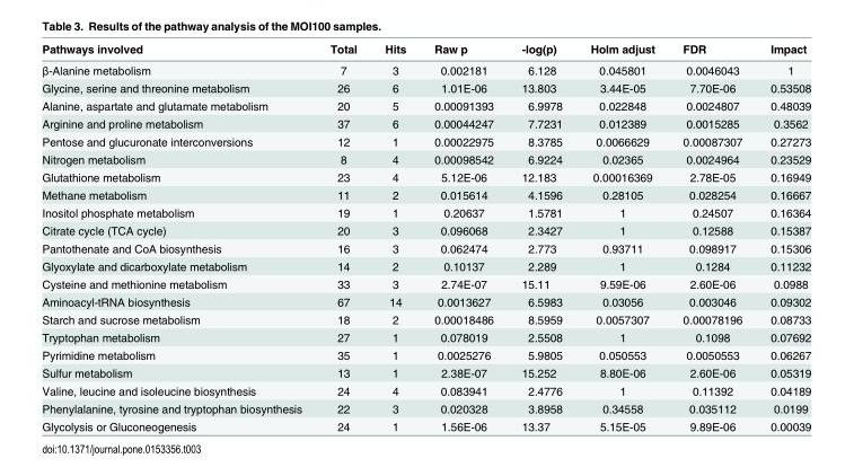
<table><thead><tr><td>Pathways involved</td><td>Total</td><td>Hits</td><td>Raw p</td><td>-log(p)</td><td>Holm adjust</td><td>FDR</td><td>Impact</td></tr></thead><tbody><tr><td>β-Alanine metabolism</td><td>7</td><td>3</td><td>0.002181</td><td>6.128</td><td>0.045801</td><td>0.0046043</td><td>1</td></tr><tr><td>Glycine, serine and threonine metabolism</td><td>26</td><td>6</td><td>1.01E-06</td><td>13.803</td><td>3.44E-05</td><td>7.70E-06</td><td>0.53508</td></tr><tr><td>Alanine, aspartate and glutamate metabolism</td><td>20</td><td>5</td><td>0.00091393</td><td>6.9978</td><td>0.022848</td><td>0.0024807</td><td>0.48039</td></tr><tr><td>Arginine and proline metabolism</td><td>37</td><td>6</td><td>0.00044247</td><td>7.7231</td><td>0.012389</td><td>0.0015285</td><td>0.3562</td></tr><tr><td>Pentose and glucuronate interconversions</td><td>12</td><td>1</td><td>0.00022975</td><td>8.3785</td><td>0.0066629</td><td>0.00087307</td><td>0.27273</td></tr><tr><td>Nitrogen metabolism</td><td>8</td><td>4</td><td>0.00098542</td><td>6.9224</td><td>0.02365</td><td>0.0024964</td><td>0.23529</td></tr><tr><td>Glutathione metabolism</td><td>23</td><td>4</td><td>5.12E-06</td><td>12.183</td><td>0.00016369</td><td>2.78E-05</td><td>0.16949</td></tr><tr><td>Methane metabolism</td><td>11</td><td>2</td><td>0.015614</td><td>4.1596</td><td>0.28105</td><td>0.028254</td><td>0.16667</td></tr><tr><td>Inositol phosphate metabolism</td><td>19</td><td>1</td><td>0.20637</td><td>1.5781</td><td>1</td><td>0.24507</td><td>0.16364</td></tr><tr><td>Citrate cycle (TCA cycle)</td><td>20</td><td>3</td><td>0.096068</td><td>2.3427</td><td>1</td><td>0.12588</td><td>0.15387</td></tr><tr><td>Pantothenate and CoA biosynthesis</td><td>16</td><td>3</td><td>0.062474</td><td>2.773</td><td>0.93711</td><td>0.098917</td><td>0.15306</td></tr><tr><td>Glyoxylate and dicarboxylate metabolism</td><td>14</td><td>2</td><td>0.10137</td><td>2.289</td><td>1</td><td>0.1284</td><td>0.11232</td></tr><tr><td>Cysteine and methionine metabolism</td><td>33</td><td>3</td><td>2.74E-07</td><td>15.11</td><td>9.59E-06</td><td>2.60E-06</td><td>0.0988</td></tr><tr><td>Aminoacyl-tRNA biosynthesis</td><td>67</td><td>14</td><td>0.0013627</td><td>6.5983</td><td>0.03056</td><td>0.003046</td><td>0.09302</td></tr><tr><td>Starch and sucrose metabolism</td><td>18</td><td>2</td><td>0.00018486</td><td>8.5959</td><td>0.0057307</td><td>0.00078196</td><td>0.08733</td></tr><tr><td>Tryptophan metabolism</td><td>27</td><td>1</td><td>0.078019</td><td>2.5508</td><td>1</td><td>0.1098</td><td>0.07692</td></tr><tr><td>Pyrimidine metabolism</td><td>35</td><td>1</td><td>0.0025276</td><td>5.9805</td><td>0.050553</td><td>0.0050553</td><td>0.06267</td></tr><tr><td>Sulfur metabolism</td><td>13</td><td>1</td><td>2.38E-07</td><td>15.252</td><td>8.80E-06</td><td>2.60E-06</td><td>0.05319</td></tr><tr><td>Valine, leucine and isoleucine biosynthesis</td><td>24</td><td>4</td><td>0.083941</td><td>2.4776</td><td>1</td><td>0.11392</td><td>0.04189</td></tr><tr><td>Phenylalanine, tyrosine and tryptophan biosynthesis</td><td>22</td><td>3</td><td>0.020328</td><td>3.8958</td><td>0.34558</td><td>0.035112</td><td>0.0199</td></tr><tr><td>Glycolysis or Gluconeogenesis</td><td>24</td><td>1</td><td>1.56E-06</td><td>13.37</td><td>5.15E-05</td><td>9.89E-06</td><td>0.00039</td></tr></tbody></table>